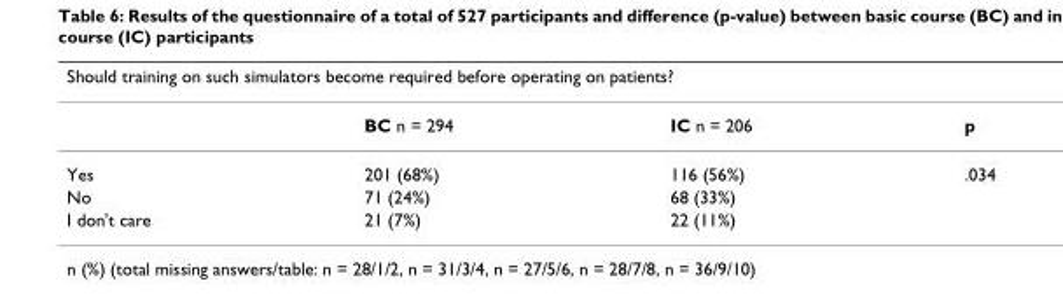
<table><thead><tr><td colspan="4">Should training on such simulators become required before operating on patients?</td></tr><tr><td></td><td>BC n = 294</td><td>IC n = 206</td><td>p</td></tr></thead><tbody><tr><td>Yes</td><td>201 (68%)</td><td>116 (56%)</td><td>.034</td></tr><tr><td>No</td><td>71 (24%)</td><td>68 (33%)</td><td></td></tr><tr><td>I don&#x27;t care</td><td>21 (7%)</td><td>22 (11%)</td><td></td></tr></tbody></table>